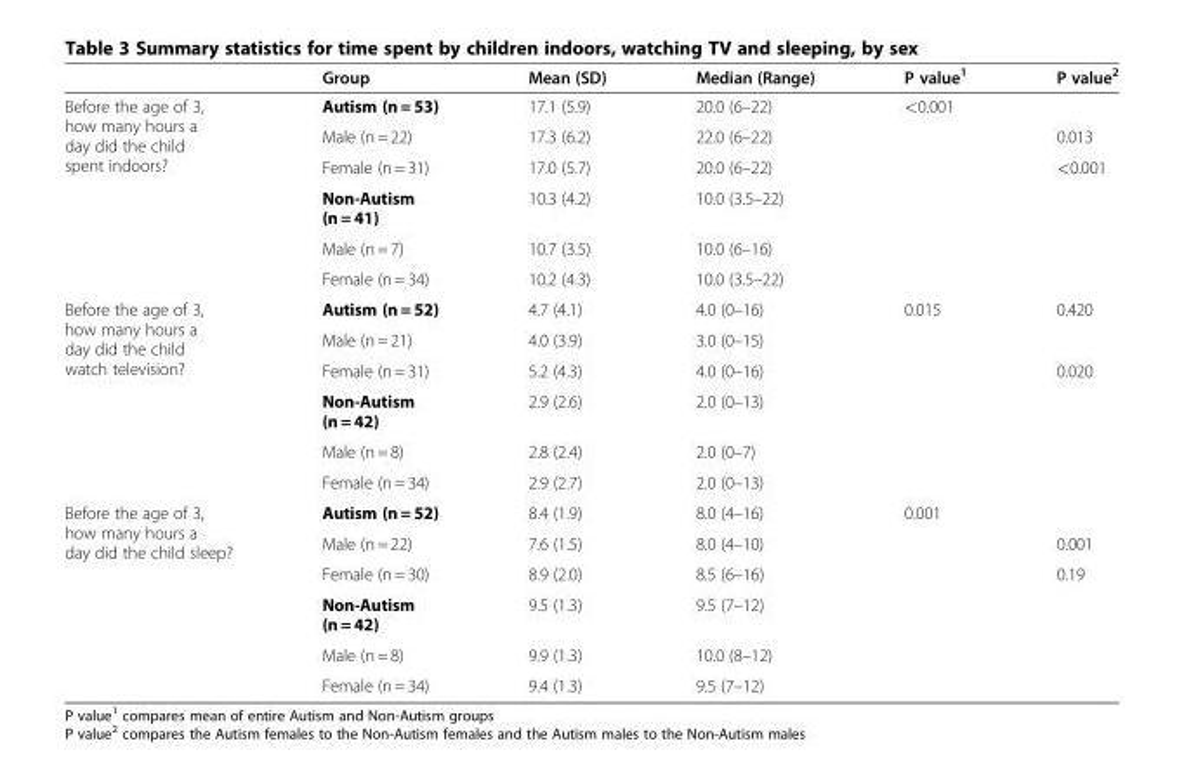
<table><thead><tr><td></td><td>Group</td><td>Mean (SD)</td><td>Median (Range)</td><td>P value<sup>1</sup></td><td>P value<sup>2</sup></td></tr></thead><tbody><tr><td rowspan="6">Before the age of 3, how many hours a day did the child spent indoors?</td><td>Autism (n = 53)</td><td>17.1 (5.9)</td><td>20.0 (6–22)</td><td>&lt;0.001</td><td></td></tr><tr><td>Male (n = 22)</td><td>17.3 (6.2)</td><td>22.0 (6–22)</td><td></td><td>0.013</td></tr><tr><td>Female (n = 31)</td><td>17.0 (5.7)</td><td>20.0 (6–22)</td><td></td><td>&lt;0.001</td></tr><tr><td>Non-Autism (n = 41)</td><td>10.3 (4.2)</td><td>10.0 (3.5–22)</td><td></td><td></td></tr><tr><td>Male (n = 7)</td><td>10.7 (3.5)</td><td>10.0 (6–16)</td><td></td><td></td></tr><tr><td>Female (n = 34)</td><td>10.2 (4.3)</td><td>10.0 (3.5–22)</td><td></td><td></td></tr><tr><td rowspan="6">Before the age of 3, how many hours a day did the child watch television?</td><td>Autism (n = 52)</td><td>4.7 (4.1)</td><td>4.0 (0–16)</td><td>0.015</td><td>0.420</td></tr><tr><td>Male (n = 21)</td><td>4.0 (3.9)</td><td>3.0 (0–15)</td><td></td><td></td></tr><tr><td>Female (n = 31)</td><td>5.2 (4.3)</td><td>4.0 (0–16)</td><td></td><td>0.020</td></tr><tr><td>Non-Autism (n = 42)</td><td>2.9 (2.6)</td><td>2.0 (0–13)</td><td></td><td></td></tr><tr><td>Male (n = 8)</td><td>2.8 (2.4)</td><td>2.0 (0–7)</td><td></td><td></td></tr><tr><td>Female (n = 34)</td><td>2.9 (2.7)</td><td>2.0 (0–13)</td><td></td><td></td></tr><tr><td rowspan="6">Before the age of 3, how many hours a day did the child sleep?</td><td>Autism (n = 52)</td><td>8.4 (1.9)</td><td>8.0 (4–16)</td><td>0.001</td><td></td></tr><tr><td>Male (n = 22)</td><td>7.6 (1.5)</td><td>8.0 (4–10)</td><td></td><td>0.001</td></tr><tr><td>Female (n = 30)</td><td>8.9 (2.0)</td><td>8.5 (6–16)</td><td></td><td>0.19</td></tr><tr><td>Non-Autism (n = 42)</td><td>9.5 (1.3)</td><td>9.5 (7–12)</td><td></td><td></td></tr><tr><td>Male (n = 8)</td><td>9.9 (1.3)</td><td>10.0 (8–12)</td><td></td><td></td></tr><tr><td>Female (n = 34)</td><td>9.4 (1.3)</td><td>9.5 (7–12)</td><td></td><td></td></tr></tbody></table>